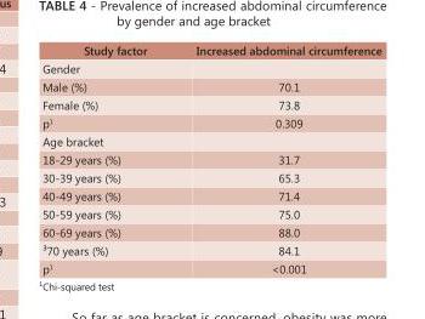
<table><thead><tr><td>Study factor</td><td>Increased abdominal circumference</td></tr></thead><tbody><tr><td colspan="2">Gender</td></tr><tr><td>Male (%)</td><td>70.1</td></tr><tr><td>Female (%)</td><td>73.8</td></tr><tr><td>p<sup>1</sup></td><td>0.309</td></tr><tr><td colspan="2">Age bracket</td></tr><tr><td>18-29 years (%)</td><td>31.7</td></tr><tr><td>30-39 years (%)</td><td>65.3</td></tr><tr><td>40-49 years (%)</td><td>71.4</td></tr><tr><td>50-59 years (%)</td><td>75.0</td></tr><tr><td>60-69 years (%)</td><td>88.0</td></tr><tr><td>³70 years (%)</td><td>84.1</td></tr><tr><td>p<sup>1</sup></td><td>&lt;0.001</td></tr></tbody></table>